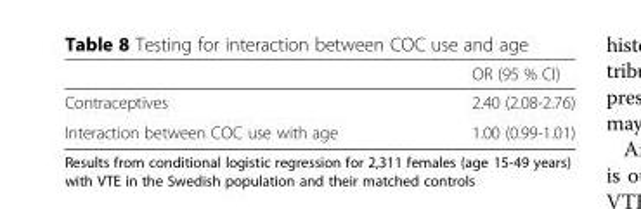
<table><thead><tr><td></td><td>OR (95 % CI)</td></tr></thead><tbody><tr><td>Contraceptives</td><td>2.40 (2.08-2.76)</td></tr><tr><td>Interaction between COC use with age</td><td>1.00 (0.99-1.01)</td></tr></tbody></table>